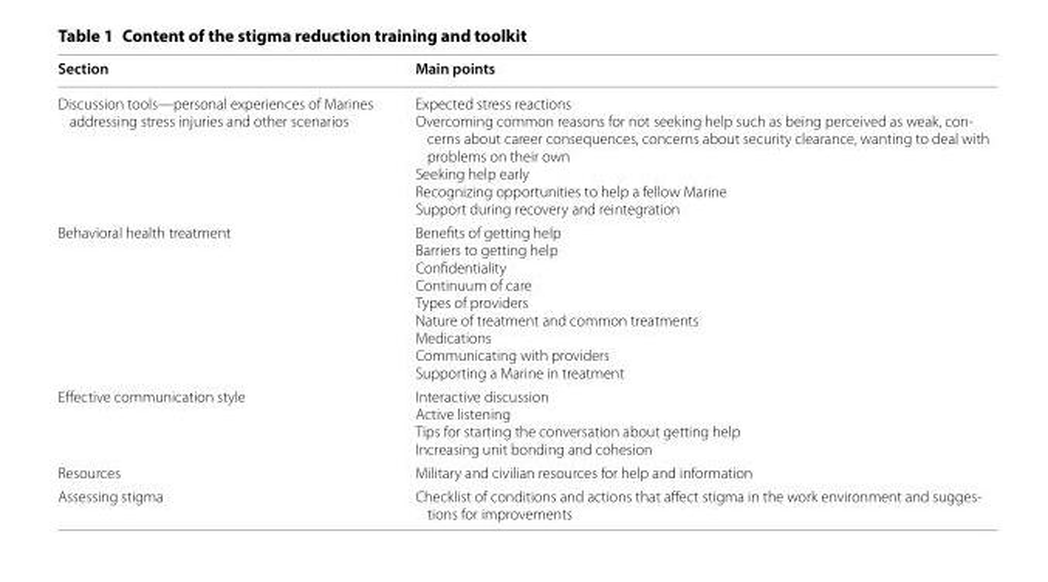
<table><thead><tr><td>Section</td><td>Main points</td></tr></thead><tbody><tr><td>Discussion tools—personal experiences of Marines addressing stress injuries and other scenarios</td><td>Expected stress reactions Overcoming common reasons for not seeking help such as being perceived as weak, con‑ cerns about career consequences, concerns about security clearance, wanting to deal with problems on their own Seeking help early Recognizing opportunities to help a fellow Marine Support during recovery and reintegration</td></tr><tr><td>Behavioral health treatment</td><td>Benefits of getting help Barriers to getting help Confidentiality Continuum of care Types of providers Nature of treatment and common treatments Medications Communicating with providers Supporting a Marine in treatment</td></tr><tr><td>Effective communication style</td><td>Interactive discussion Active listening Tips for starting the conversation about getting help Increasing unit bonding and cohesion</td></tr><tr><td>Resources</td><td>Military and civilian resources for help and information</td></tr><tr><td>Assessing stigma</td><td>Checklist of conditions and actions that affect stigma in the work environment and sugges‑ tions for improvements</td></tr></tbody></table>